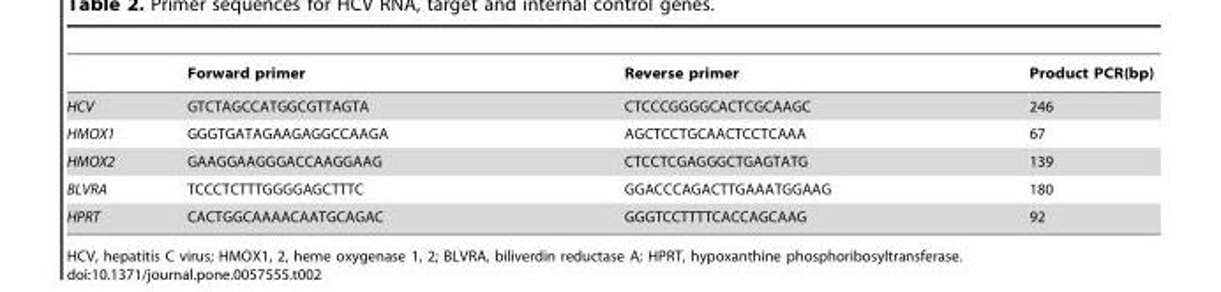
<table><thead><tr><td></td><td>Forward primer</td><td>Reverse primer</td><td>Product PCR(bp)</td></tr></thead><tbody><tr><td>HCV</td><td>GTCTAGCCATGGCGTTAGTA</td><td>CTCCCGGGGCACTCGCAAGC</td><td>246</td></tr><tr><td>HMOX1</td><td>GGGTGATAGAAGAGGCCAAGA</td><td>AGCTCCTGCAACTCCTCAAA</td><td>67</td></tr><tr><td>HMOX2</td><td>GAAGGAAGGGACCAAGGAAG</td><td>CTCCTCGAGGGCTGAGTATG</td><td>139</td></tr><tr><td>BLVRA</td><td>TCCCTCTTTGGGGAGCTTTC</td><td>GGACCCAGACTTGAAATGGAAG</td><td>180</td></tr><tr><td>HPRT</td><td>CACTGGCAAAACAATGCAGAC</td><td>GGGTCCTTTTCACCAGCAAG</td><td>92</td></tr></tbody></table>